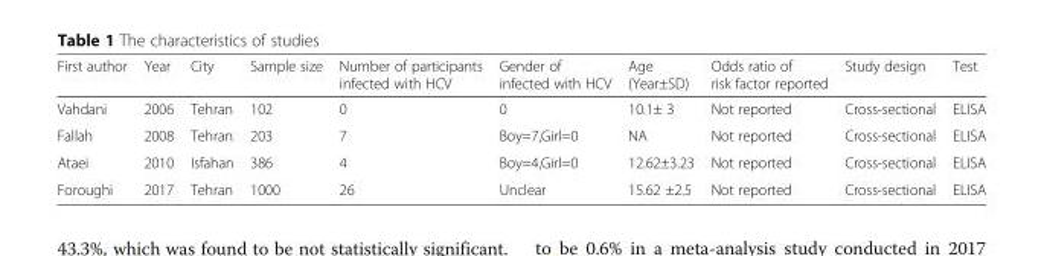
<table><thead><tr><td>First author</td><td>Year</td><td>City</td><td>Sample size</td><td>Number of participants infected with HCV</td><td>Gender of infected with HCV</td><td>Age (Year±SD)</td><td>Odds ratio of risk factor reported</td><td>Study design</td><td>Test</td></tr></thead><tbody><tr><td>Vahdani</td><td>2006</td><td>Tehran</td><td>102</td><td>0</td><td>0</td><td>10.1± 3</td><td>Not reported</td><td>Cross-sectional</td><td>ELISA</td></tr><tr><td>Fallah</td><td>2008</td><td>Tehran</td><td>203</td><td>7</td><td>Boy=7,Girl=0</td><td>NA</td><td>Not reported</td><td>Cross-sectional</td><td>ELISA</td></tr><tr><td>Ataei</td><td>2010</td><td>Isfahan</td><td>386</td><td>4</td><td>Boy=4,Girl=0</td><td>12.62±3.23</td><td>Not reported</td><td>Cross-sectional</td><td>ELISA</td></tr><tr><td>Foroughi</td><td>2017</td><td>Tehran</td><td>1000</td><td>26</td><td>Unclear</td><td>15.62 ±2.5</td><td>Not reported</td><td>Cross-sectional</td><td>ELISA</td></tr></tbody></table>